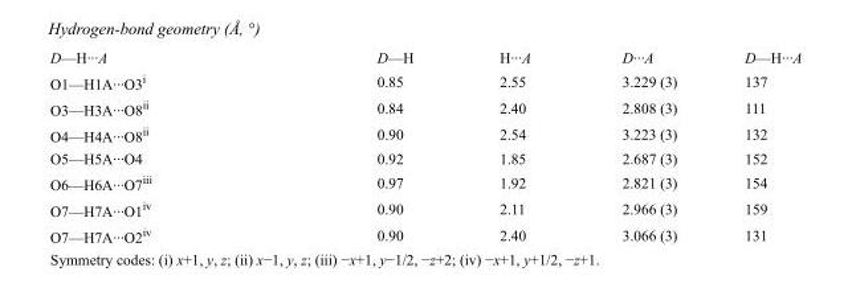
<table><tbody><tr><td>D—H···A</td><td>D—H</td><td>H···A</td><td>D···A</td><td>D—H···A</td></tr><tr><td>O1—H1A···O3<sup>i</sup></td><td>0.85</td><td>2.55</td><td>3.229 (3)</td><td>137</td></tr><tr><td>O3—H3A···O8<sup>ii</sup></td><td>0.84</td><td>2.40</td><td>2.808 (3)</td><td>111</td></tr><tr><td>O4—H4A···O8<sup>ii</sup></td><td>0.90</td><td>2.54</td><td>3.223 (3)</td><td>132</td></tr><tr><td>O5—H5A···O4</td><td>0.92</td><td>1.85</td><td>2.687 (3)</td><td>152</td></tr><tr><td>O6—H6A···O7<sup>iii</sup></td><td>0.97</td><td>1.92</td><td>2.821 (3)</td><td>154</td></tr><tr><td>O7—H7A···O1<sup>iv</sup></td><td>0.90</td><td>2.11</td><td>2.966 (3)</td><td>159</td></tr><tr><td>O7—H7A···O2<sup>iv</sup></td><td>0.90</td><td>2.40</td><td>3.066 (3)</td><td>131</td></tr></tbody></table>